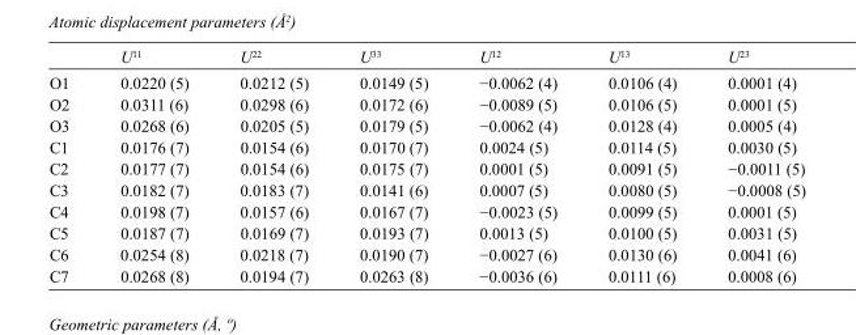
<table><thead><tr><td></td><td>U<sup>11</sup></td><td>U<sup>22</sup></td><td>U<sup>33</sup></td><td>U<sup>12</sup></td><td>U<sup>13</sup></td><td>U<sup>23</sup></td></tr></thead><tbody><tr><td>O1</td><td>0.0220 (5)</td><td>0.0212 (5)</td><td>0.0149 (5)</td><td>−0.0062 (4)</td><td>0.0106 (4)</td><td>0.0001 (4)</td></tr><tr><td>O2</td><td>0.0311 (6)</td><td>0.0298 (6)</td><td>0.0172 (6)</td><td>−0.0089 (5)</td><td>0.0106 (5)</td><td>0.0001 (5)</td></tr><tr><td>O3</td><td>0.0268 (6)</td><td>0.0205 (5)</td><td>0.0179 (5)</td><td>−0.0062 (4)</td><td>0.0128 (4)</td><td>0.0005 (4)</td></tr><tr><td>C1</td><td>0.0176 (7)</td><td>0.0154 (6)</td><td>0.0170 (7)</td><td>0.0024 (5)</td><td>0.0114 (5)</td><td>0.0030 (5)</td></tr><tr><td>C2</td><td>0.0177 (7)</td><td>0.0154 (6)</td><td>0.0175 (7)</td><td>0.0001 (5)</td><td>0.0091 (5)</td><td>−0.0011 (5)</td></tr><tr><td>C3</td><td>0.0182 (7)</td><td>0.0183 (7)</td><td>0.0141 (6)</td><td>0.0007 (5)</td><td>0.0080 (5)</td><td>−0.0008 (5)</td></tr><tr><td>C4</td><td>0.0198 (7)</td><td>0.0157 (6)</td><td>0.0167 (7)</td><td>−0.0023 (5)</td><td>0.0099 (5)</td><td>0.0001 (5)</td></tr><tr><td>C5</td><td>0.0187 (7)</td><td>0.0169 (7)</td><td>0.0193 (7)</td><td>0.0013 (5)</td><td>0.0100 (5)</td><td>0.0031 (5)</td></tr><tr><td>C6</td><td>0.0254 (8)</td><td>0.0218 (7)</td><td>0.0190 (7)</td><td>−0.0027 (6)</td><td>0.0130 (6)</td><td>0.0041 (6)</td></tr><tr><td>C7</td><td>0.0268 (8)</td><td>0.0194 (7)</td><td>0.0263 (8)</td><td>−0.0036 (6)</td><td>0.0111 (6)</td><td>0.0008 (6)</td></tr></tbody></table>